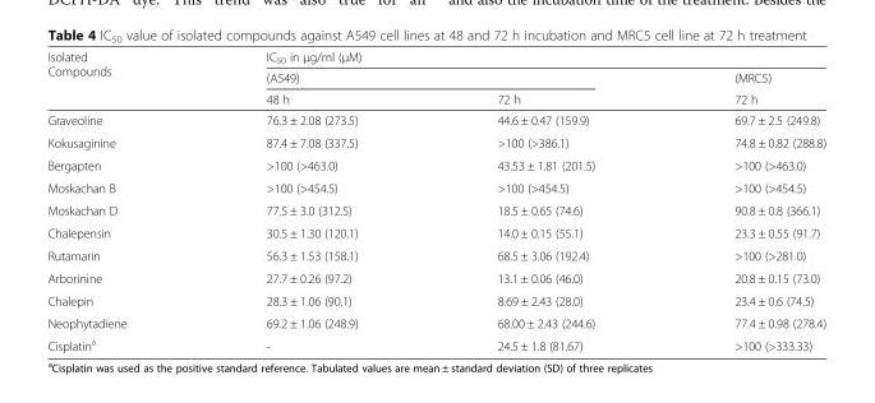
<table><thead><tr><td rowspan="3">Isolated Compounds</td><td colspan="3">IC<sub>50</sub> in μg/ml (μM)</td></tr><tr><td colspan="2">(A549)</td><td rowspan="2">(MRC5) 72 h</td></tr><tr><td>48 h</td><td>72 h</td></tr></thead><tbody><tr><td>Graveoline</td><td>76.3 ± 2.08 (273.5)</td><td>44.6 ± 0.47 (159.9)</td><td>69.7 ± 2.5 (249.8)</td></tr><tr><td>Kokusaginine</td><td>87.4 ± 7.08 (337.5)</td><td>&gt;100 (&gt;386.1)</td><td>74.8 ± 0.82 (288.8)</td></tr><tr><td>Bergapten</td><td>&gt;100 (&gt;463.0)</td><td>43.53 ± 1.81 (201.5)</td><td>&gt;100 (&gt;463.0)</td></tr><tr><td>Moskachan B</td><td>&gt;100 (&gt;454.5)</td><td>&gt;100 (&gt;454.5)</td><td>&gt;100 (&gt;454.5)</td></tr><tr><td>Moskachan D</td><td>77.5 ± 3.0 (312.5)</td><td>18.5 ± 0.65 (74.6)</td><td>90.8 ± 0.8 (366.1)</td></tr><tr><td>Chalepensin</td><td>30.5 ± 1.30 (120.1)</td><td>14.0 ± 0.15 (55.1)</td><td>23.3 ± 0.55 (91.7)</td></tr><tr><td>Rutamarin</td><td>56.3 ± 1.53 (158.1)</td><td>68.5 ± 3.06 (192.4)</td><td>&gt;100 (&gt;281.0)</td></tr><tr><td>Arborinine</td><td>27.7 ± 0.26 (97.2)</td><td>13.1 ± 0.06 (46.0)</td><td>20.8 ± 0.15 (73.0)</td></tr><tr><td>Chalepin</td><td>28.3 ± 1.06 (90.1)</td><td>8.69 ± 2.43 (28.0)</td><td>23.4 ± 0.6 (74.5)</td></tr><tr><td>Neophytadiene</td><td>69.2 ± 1.06 (248.9)</td><td>68.00 ± 2.43 (244.6)</td><td>77.4 ± 0.98 (278.4)</td></tr><tr><td>Cisplatin<sup>a</sup></td><td>-</td><td>24.5 ± 1.8 (81.67)</td><td>&gt;100 (&gt;333.33)</td></tr></tbody></table>